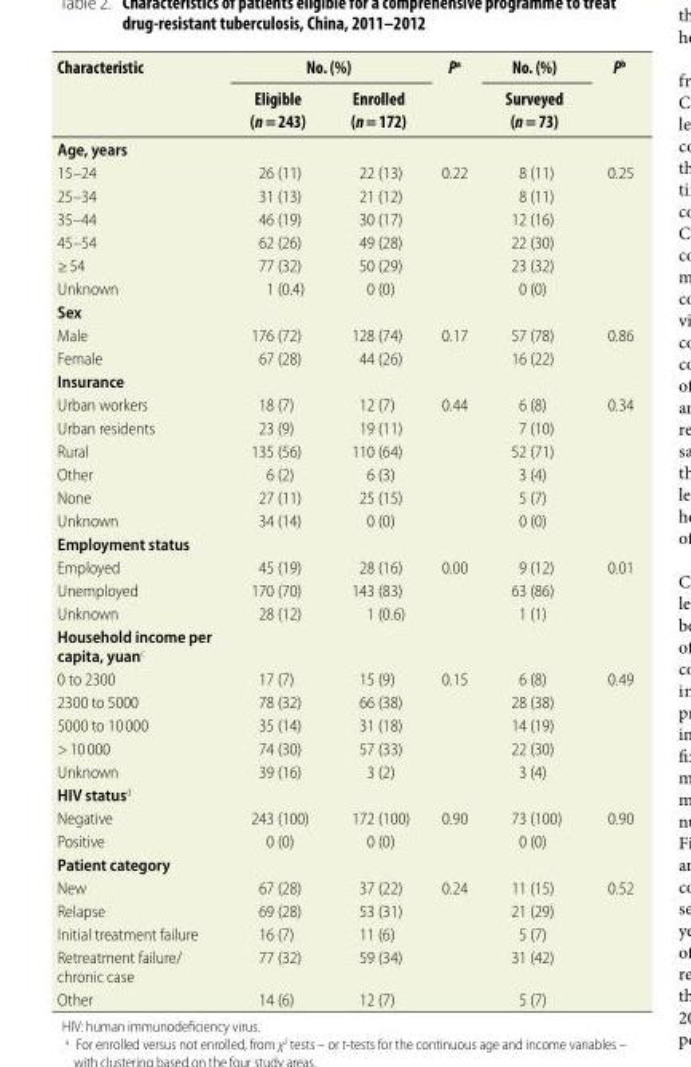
<table><thead><tr><td rowspan="2">Characteristic</td><td colspan="2">No. (%)</td><td rowspan="2">P<sup>a</sup></td><td rowspan="2">No. (%) Surveyed (n = 73)</td><td rowspan="2">P<sup>b</sup></td></tr><tr><td>Eligible (n = 243)</td><td>Enrolled (n = 172)</td></tr></thead><tbody><tr><td colspan="6">Age, years</td></tr><tr><td>15–24</td><td>26 (11)</td><td>22 (13)</td><td rowspan="6">0.22</td><td>8 (11)</td><td rowspan="6">0.25</td></tr><tr><td>25–34</td><td>31 (13)</td><td>21 (12)</td><td>8 (11)</td></tr><tr><td>35–44</td><td>46 (19)</td><td>30 (17)</td><td>12 (16)</td></tr><tr><td>45–54</td><td>62 (26)</td><td>49 (28)</td><td>22 (30)</td></tr><tr><td>≥ 54</td><td>77 (32)</td><td>50 (29)</td><td>23 (32)</td></tr><tr><td>Unknown</td><td>1 (0.4)</td><td>0 (0)</td><td>0 (0)</td></tr><tr><td colspan="6">Sex</td></tr><tr><td>Male</td><td>176 (72)</td><td>128 (74)</td><td rowspan="2">0.17</td><td>57 (78)</td><td rowspan="2">0.86</td></tr><tr><td>Female</td><td>67 (28)</td><td>44 (26)</td><td>16 (22)</td></tr><tr><td colspan="6">Insurance</td></tr><tr><td>Urban workers</td><td>18 (7)</td><td>12 (7)</td><td rowspan="6">0.44</td><td>6 (8)</td><td rowspan="6">0.34</td></tr><tr><td>Urban residents</td><td>23 (9)</td><td>19 (11)</td><td>7 (10)</td></tr><tr><td>Rural</td><td>135 (56)</td><td>110 (64)</td><td>52 (71)</td></tr><tr><td>Other</td><td>6 (2)</td><td>6 (3)</td><td>3 (4)</td></tr><tr><td>None</td><td>27 (11)</td><td>25 (15)</td><td>5 (7)</td></tr><tr><td>Unknown</td><td>34 (14)</td><td>0 (0)</td><td>0 (0)</td></tr><tr><td colspan="6">Employment status</td></tr><tr><td>Employed</td><td>45 (19)</td><td>28 (16)</td><td rowspan="3">0.00</td><td>9 (12)</td><td rowspan="3">0.01</td></tr><tr><td>Unemployed</td><td>170 (70)</td><td>143 (83)</td><td>63 (86)</td></tr><tr><td>Unknown</td><td>28 (12)</td><td>1 (0.6)</td><td>1 (1)</td></tr><tr><td colspan="6">Household income per capita, yuan<sup>c</sup></td></tr><tr><td>0 to 2300</td><td>17 (7)</td><td>15 (9)</td><td rowspan="5">0.15</td><td>6 (8)</td><td rowspan="5">0.49</td></tr><tr><td>2300 to 5000</td><td>78 (32)</td><td>66 (38)</td><td>28 (38)</td></tr><tr><td>5000 to 10 000</td><td>35 (14)</td><td>31 (18)</td><td>14 (19)</td></tr><tr><td>&gt; 10 000</td><td>74 (30)</td><td>57 (33)</td><td>22 (30)</td></tr><tr><td>Unknown</td><td>39 (16)</td><td>3 (2)</td><td>3 (4)</td></tr><tr><td colspan="6">HIV status<sup>d</sup></td></tr><tr><td>Negative</td><td>243 (100)</td><td>172 (100)</td><td rowspan="2">0.90</td><td>73 (100)</td><td rowspan="2">0.90</td></tr><tr><td>Positive</td><td>0 (0)</td><td>0 (0)</td><td>0 (0)</td></tr><tr><td colspan="6">Patient category</td></tr><tr><td>New</td><td>67 (28)</td><td>37 (22)</td><td rowspan="5">0.24</td><td>11 (15)</td><td rowspan="5">0.52</td></tr><tr><td>Relapse</td><td>69 (28)</td><td>53 (31)</td><td>21 (29)</td></tr><tr><td>Initial treatment failure</td><td>16 (7)</td><td>11 (6)</td><td>5 (7)</td></tr><tr><td>Retreatment failure/ chronic case</td><td>77 (32)</td><td>59 (34)</td><td>31 (42)</td></tr><tr><td>Other</td><td>14 (6)</td><td>12 (7)</td><td>5 (7)</td></tr></tbody></table>